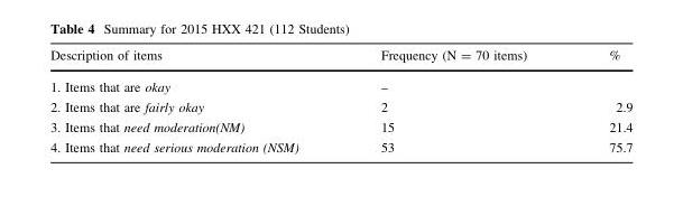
<table><thead><tr><td>Description of items</td><td>Frequency (N = 70 items)</td><td>%</td></tr></thead><tbody><tr><td>1. Items that are okay</td><td>–</td><td></td></tr><tr><td>2. Items that are fairly okay</td><td>2</td><td>2.9</td></tr><tr><td>3. Items that need moderation(NM)</td><td>15</td><td>21.4</td></tr><tr><td>4. Items that need serious moderation (NSM)</td><td>53</td><td>75.7</td></tr></tbody></table>